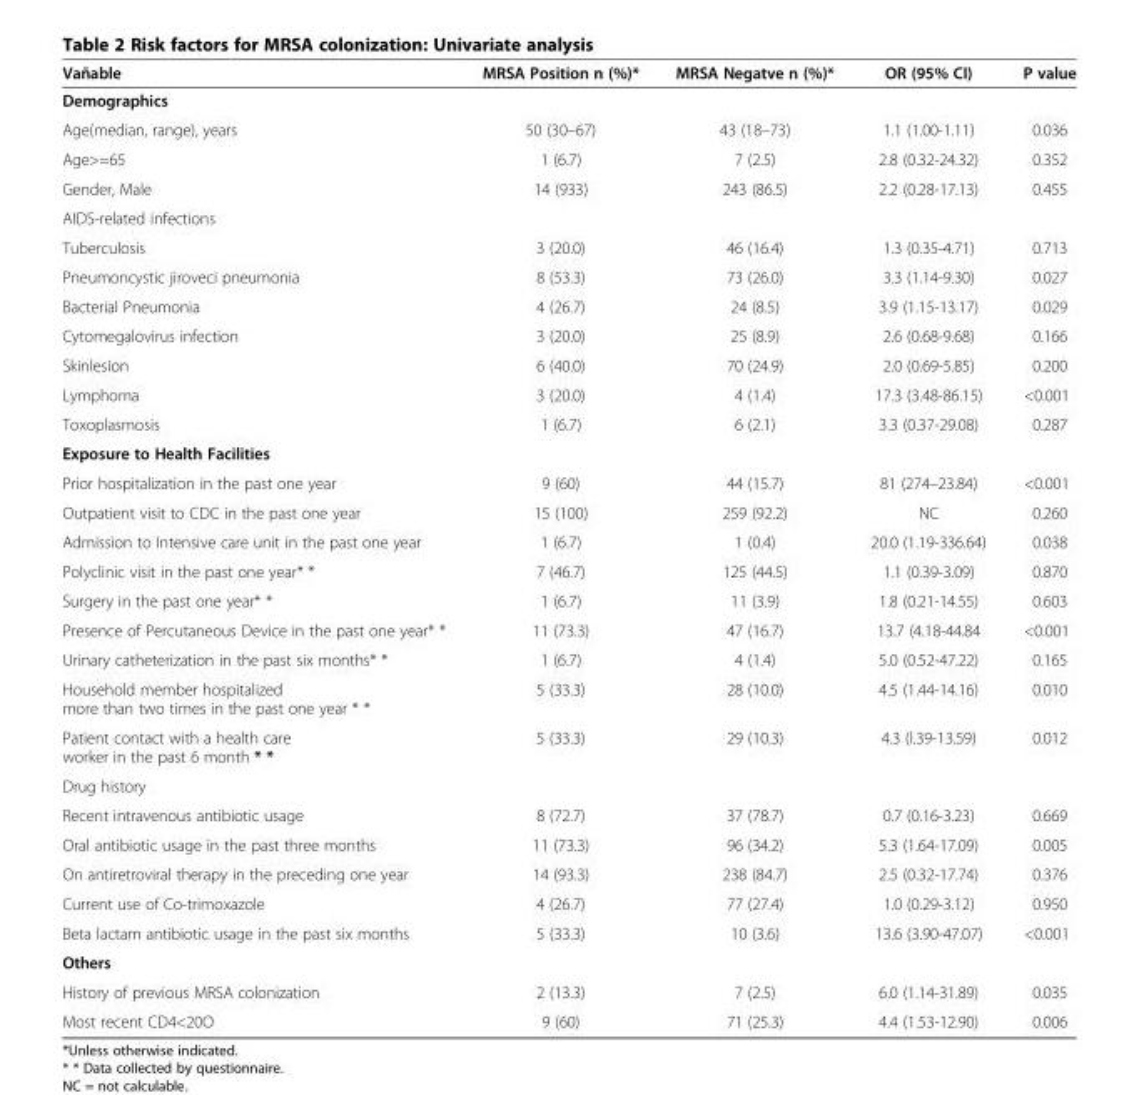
<table><thead><tr><td>Vañable</td><td>MRSA Position n (%)*</td><td>MRSA Negatve n (%)*</td><td>OR (95% CI)</td><td>P value</td></tr></thead><tbody><tr><td colspan="5">Demographics</td></tr><tr><td>Age(median, range), years</td><td>50 (30–67)</td><td>43 (18–73)</td><td>1.1 (1.00-1.11)</td><td>0.036</td></tr><tr><td>Age&gt;=65</td><td>1 (6.7)</td><td>7 (2.5)</td><td>2.8 (0.32-24.32)</td><td>0.352</td></tr><tr><td>Gender, Male</td><td>14 (933)</td><td>243 (86.5)</td><td>2.2 (0.28-17.13)</td><td>0.455</td></tr><tr><td colspan="5">AIDS-related infections</td></tr><tr><td>Tuberculosis</td><td>3 (20.0)</td><td>46 (16.4)</td><td>1.3 (0.35-4.71)</td><td>0.713</td></tr><tr><td>Pneumoncystic jiroveci pneumonia</td><td>8 (53.3)</td><td>73 (26.0)</td><td>3.3 (1.14-9.30)</td><td>0.027</td></tr><tr><td>Bacterial Pneumonia</td><td>4 (26.7)</td><td>24 (8.5)</td><td>3.9 (1.15-13.17)</td><td>0.029</td></tr><tr><td>Cytomegalovirus infection</td><td>3 (20.0)</td><td>25 (8.9)</td><td>2.6 (0.68-9.68)</td><td>0.166</td></tr><tr><td>Skinlesion</td><td>6 (40.0)</td><td>70 (24.9)</td><td>2.0 (0.69-5.85)</td><td>0.200</td></tr><tr><td>Lymphoma</td><td>3 (20.0)</td><td>4 (1.4)</td><td>17.3 (3.48-86.15)</td><td>&lt;0.001</td></tr><tr><td>Toxoplasmosis</td><td>1 (6.7)</td><td>6 (2.1)</td><td>3.3 (0.37-29.08)</td><td>0.287</td></tr><tr><td colspan="5">Exposure to Health Facilities</td></tr><tr><td>Prior hospitalization in the past one year</td><td>9 (60)</td><td>44 (15.7)</td><td>81 (274–23.84)</td><td>&lt;0.001</td></tr><tr><td>Outpatient visit to CDC in the past one year</td><td>15 (100)</td><td>259 (92.2)</td><td>NC</td><td>0.260</td></tr><tr><td>Admission to Intensive care unit in the past one year</td><td>1 (6.7)</td><td>1 (0.4)</td><td>20.0 (1.19-336.64)</td><td>0.038</td></tr><tr><td>Polyclinic visit in the past one year* *</td><td>7 (46.7)</td><td>125 (44.5)</td><td>1.1 (0.39-3.09)</td><td>0.870</td></tr><tr><td>Surgery in the past one year* *</td><td>1 (6.7)</td><td>11 (3.9)</td><td>1.8 (0.21-14.55)</td><td>0.603</td></tr><tr><td>Presence of Percutaneous Device in the past one year* *</td><td>11 (73.3)</td><td>47 (16.7)</td><td>13.7 (4.18-44.84</td><td>&lt;0.001</td></tr><tr><td>Urinary catheterization in the past six months* *</td><td>1 (6.7)</td><td>4 (1.4)</td><td>5.0 (0.52-47.22)</td><td>0.165</td></tr><tr><td>Household member hospitalized more than two times in the past one year * *</td><td>5 (33.3)</td><td>28 (10.0)</td><td>4.5 (1.44-14.16)</td><td>0.010</td></tr><tr><td>Patient contact with a health care worker in the past 6 month * *</td><td>5 (33.3)</td><td>29 (10.3)</td><td>4.3 (l.39-13.59)</td><td>0.012</td></tr><tr><td colspan="5">Drug history</td></tr><tr><td>Recent intravenous antibiotic usage</td><td>8 (72.7)</td><td>37 (78.7)</td><td>0.7 (0.16-3.23)</td><td>0.669</td></tr><tr><td>Oral antibiotic usage in the past three months</td><td>11 (73.3)</td><td>96 (34.2)</td><td>5.3 (1.64-17.09)</td><td>0.005</td></tr><tr><td>On antiretroviral therapy in the preceding one year</td><td>14 (93.3)</td><td>238 (84.7)</td><td>2.5 (0.32-17.74)</td><td>0.376</td></tr><tr><td>Current use of Co-trimoxazole</td><td>4 (26.7)</td><td>77 (27.4)</td><td>1.0 (0.29-3.12)</td><td>0.950</td></tr><tr><td>Beta lactam antibiotic usage in the past six months</td><td>5 (33.3)</td><td>10 (3.6)</td><td>13.6 (3.90-47.07)</td><td>&lt;0.001</td></tr><tr><td colspan="5">Others</td></tr><tr><td>History of previous MRSA colonization</td><td>2 (13.3)</td><td>7 (2.5)</td><td>6.0 (1.14-31.89)</td><td>0.035</td></tr><tr><td>Most recent CD4&lt;20O</td><td>9 (60)</td><td>71 (25.3)</td><td>4.4 (1.53-12.90)</td><td>0.006</td></tr></tbody></table>